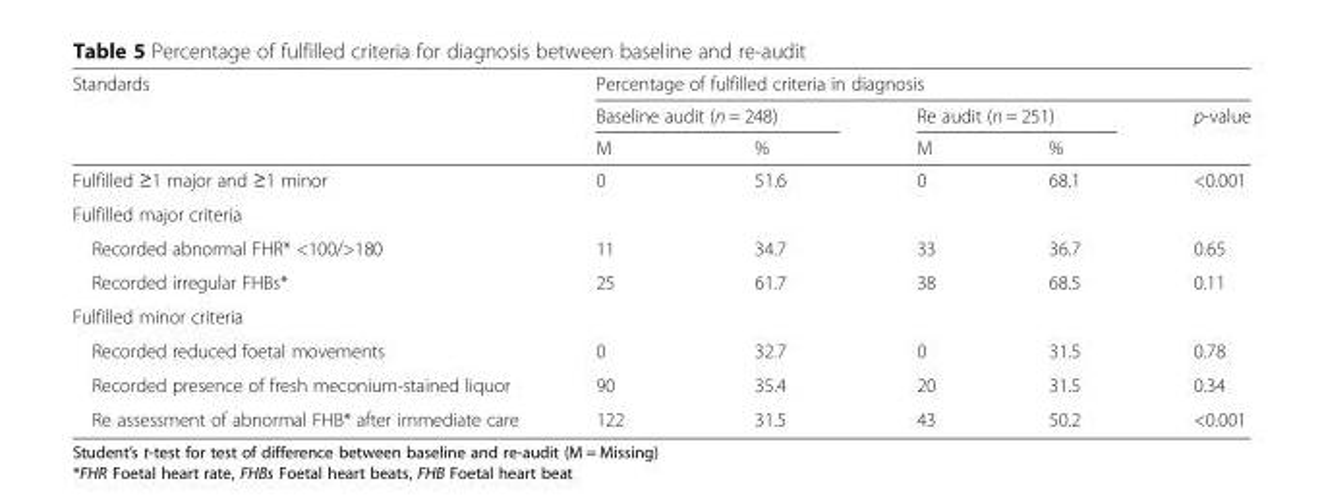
<table><thead><tr><td rowspan="3">Standards</td><td colspan="5">Percentage of fulfilled criteria in diagnosis</td></tr><tr><td colspan="2">Baseline audit (n = 248)</td><td colspan="2">Re audit (n = 251)</td><td rowspan="2">p-value</td></tr><tr><td>M</td><td>%</td><td>M</td><td>%</td></tr></thead><tbody><tr><td>Fulfilled ≥1 major and ≥1 minor</td><td>0</td><td>51.6</td><td>0</td><td>68.1</td><td>&lt;0.001</td></tr><tr><td colspan="6">Fulfilled major criteria</td></tr><tr><td>Recorded abnormal FHR* &lt;100/&gt;180</td><td>11</td><td>34.7</td><td>33</td><td>36.7</td><td>0.65</td></tr><tr><td>Recorded irregular FHBs*</td><td>25</td><td>61.7</td><td>38</td><td>68.5</td><td>0.11</td></tr><tr><td colspan="6">Fulfilled minor criteria</td></tr><tr><td>Recorded reduced foetal movements</td><td>0</td><td>32.7</td><td>0</td><td>31.5</td><td>0.78</td></tr><tr><td>Recorded presence of fresh meconium-stained liquor</td><td>90</td><td>35.4</td><td>20</td><td>31.5</td><td>0.34</td></tr><tr><td>Re assessment of abnormal FHB* after immediate care</td><td>122</td><td>31.5</td><td>43</td><td>50.2</td><td>&lt;0.001</td></tr></tbody></table>